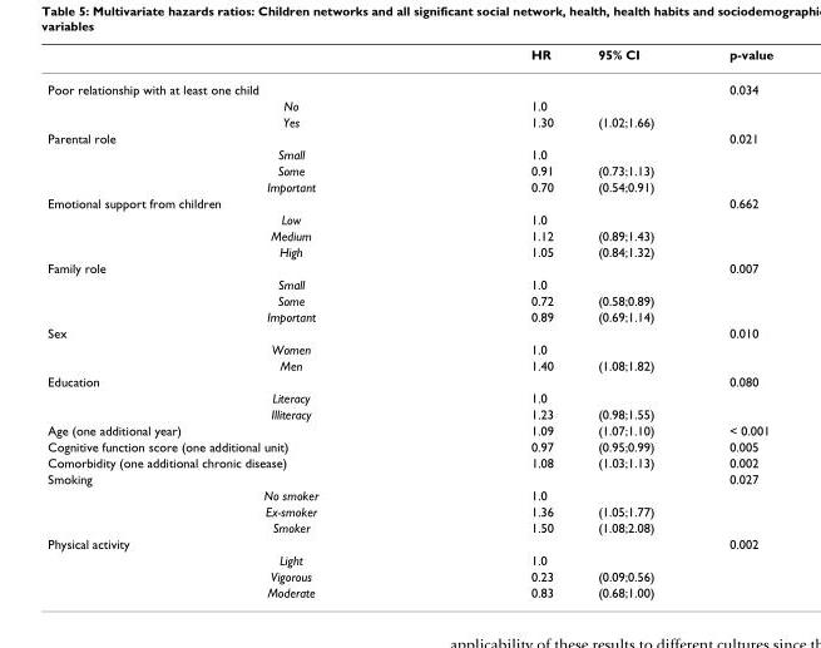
<table><thead><tr><td></td><td>HR</td><td>95% CI</td><td>p-value</td></tr></thead><tbody><tr><td>Poor relationship with at least one child</td><td></td><td></td><td>0.034</td></tr><tr><td>No</td><td>1.0</td><td></td><td></td></tr><tr><td>Yes</td><td>1.30</td><td>(1.02;1.66)</td><td></td></tr><tr><td>Parental role</td><td></td><td></td><td>0.021</td></tr><tr><td>Small</td><td>1.0</td><td></td><td></td></tr><tr><td>Some</td><td>0.91</td><td>(0.73;1.13)</td><td></td></tr><tr><td>Important</td><td>0.70</td><td>(0.54;0.91)</td><td></td></tr><tr><td>Emotional support from children</td><td></td><td></td><td>0.662</td></tr><tr><td>Low</td><td>1.0</td><td></td><td></td></tr><tr><td>Medium</td><td>1.12</td><td>(0.89;1.43)</td><td></td></tr><tr><td>High</td><td>1.05</td><td>(0.84;1.32)</td><td></td></tr><tr><td>Family role</td><td></td><td></td><td>0.007</td></tr><tr><td>Small</td><td>1.0</td><td></td><td></td></tr><tr><td>Some</td><td>0.72</td><td>(0.58;0.89)</td><td></td></tr><tr><td>Important</td><td>0.89</td><td>(0.69;1.14)</td><td></td></tr><tr><td>Sex</td><td></td><td></td><td>0.010</td></tr><tr><td>Women</td><td>1.0</td><td></td><td></td></tr><tr><td>Men</td><td>1.40</td><td>(1.08;1.82)</td><td></td></tr><tr><td>Education</td><td></td><td></td><td>0.080</td></tr><tr><td>Literacy</td><td>1.0</td><td></td><td></td></tr><tr><td>Illiteracy</td><td>1.23</td><td>(0.98;1.55)</td><td></td></tr><tr><td>Age (one additional year)</td><td>1.09</td><td>(1.07;1.10)</td><td>&lt; 0.001</td></tr><tr><td>Cognitive function score (one additional unit)</td><td>0.97</td><td>(0.95;0.99)</td><td>0.005</td></tr><tr><td>Comorbidity (one additional chronic disease)</td><td>1.08</td><td>(1.03;1.13)</td><td>0.002</td></tr><tr><td>Smoking</td><td></td><td></td><td>0.027</td></tr><tr><td>No smoker</td><td>1.0</td><td></td><td></td></tr><tr><td>Ex-smoker</td><td>1.36</td><td>(1.05;1.77)</td><td></td></tr><tr><td>Smoker</td><td>1.50</td><td>(1.08;2.08)</td><td></td></tr><tr><td>Physical activity</td><td></td><td></td><td>0.002</td></tr><tr><td>Light</td><td>1.0</td><td></td><td></td></tr><tr><td>Vigorous</td><td>0.23</td><td>(0.09;0.56)</td><td></td></tr><tr><td>Moderate</td><td>0.83</td><td>(0.68;1.00)</td><td></td></tr></tbody></table>